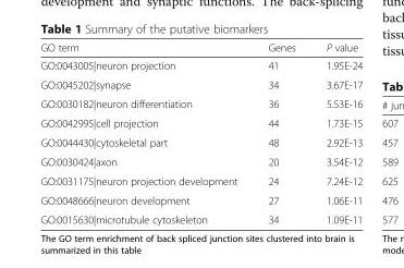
<table><thead><tr><td>GO term</td><td>Genes</td><td>P value</td></tr></thead><tbody><tr><td>GO:0043005|neuron projection</td><td>41</td><td>1.95E-24</td></tr><tr><td>GO:0045202|synapse</td><td>34</td><td>3.67E-17</td></tr><tr><td>GO:0030182|neuron differentiation</td><td>36</td><td>5.53E-16</td></tr><tr><td>GO:0042995|cell projection</td><td>44</td><td>1.73E-15</td></tr><tr><td>GO:0044430|cytoskeletal part</td><td>48</td><td>2.92E-13</td></tr><tr><td>GO:0030424|axon</td><td>20</td><td>3.54E-12</td></tr><tr><td>GO:0031175|neuron projection development</td><td>24</td><td>7.24E-12</td></tr><tr><td>GO:0048666|neuron development</td><td>27</td><td>1.06E-11</td></tr><tr><td>GO:0015630|microtubule cytoskeleton</td><td>34</td><td>1.09E-11</td></tr></tbody></table>